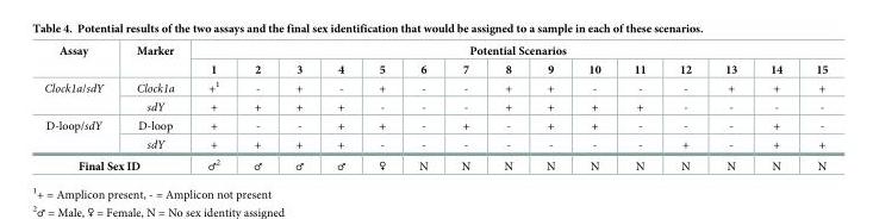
<table><thead><tr><td rowspan="2">Assay</td><td rowspan="2">Marker</td><td colspan="15">Potential Scenarios</td></tr><tr><td>1</td><td>2</td><td>3</td><td>4</td><td>5</td><td>6</td><td>7</td><td>8</td><td>9</td><td>10</td><td>11</td><td>12</td><td>13</td><td>14</td><td>15</td></tr></thead><tbody><tr><td rowspan="2">Clock1a/sdY</td><td>Clock1a</td><td>+<sup>1</sup></td><td>-</td><td>+</td><td>-</td><td>+</td><td>-</td><td>-</td><td>+</td><td>+</td><td>-</td><td>-</td><td>-</td><td>+</td><td>+</td><td>+</td></tr><tr><td>sdY</td><td>+</td><td>+</td><td>+</td><td>+</td><td>-</td><td>-</td><td>-</td><td>+</td><td>+</td><td>+</td><td>+</td><td>-</td><td>-</td><td>-</td><td>-</td></tr><tr><td rowspan="2">D-loop/sdY</td><td>D-loop</td><td>+</td><td>-</td><td>-</td><td>+</td><td>+</td><td>-</td><td>+</td><td>-</td><td>+</td><td>+</td><td>-</td><td>-</td><td>-</td><td>+</td><td>-</td></tr><tr><td>sdY</td><td>+</td><td>+</td><td>+</td><td>+</td><td>-</td><td>-</td><td>-</td><td>-</td><td>-</td><td>-</td><td>-</td><td>+</td><td>-</td><td>+</td><td>+</td></tr><tr><td colspan="2">Final Sex ID</td><td>♂<sup>2</sup></td><td>♂</td><td>♂</td><td>♂</td><td>♀</td><td>N</td><td>N</td><td>N</td><td>N</td><td>N</td><td>N</td><td>N</td><td>N</td><td>N</td><td>N</td></tr></tbody></table>